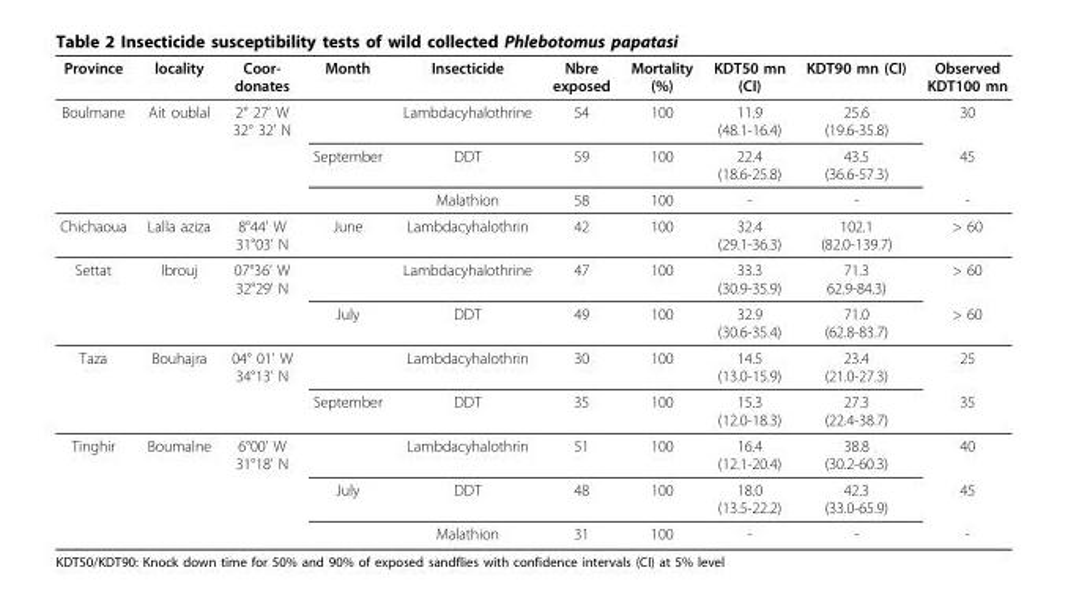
<table><thead><tr><td>Province</td><td>locality</td><td>Coor- donates</td><td>Month</td><td>Insecticide</td><td>Nbre exposed</td><td>Mortality (%)</td><td>KDT50 mn (CI)</td><td>KDT90 mn (CI)</td><td>Observed KDT100 mn</td></tr></thead><tbody><tr><td rowspan="3">Boulmane</td><td>Ait oublal</td><td>2° 27’ W 32° 32’ N</td><td></td><td>Lambdacyhalothrine</td><td>54</td><td>100</td><td>11.9 (48.1-16.4)</td><td>25.6 (19.6-35.8)</td><td>30</td></tr><tr><td></td><td></td><td>September</td><td>DDT</td><td>59</td><td>100</td><td>22.4 (18.6-25.8)</td><td>43.5 (36.6-57.3)</td><td>45</td></tr><tr><td></td><td></td><td></td><td>Malathion</td><td>58</td><td>100</td><td>-</td><td>-</td><td>-</td></tr><tr><td>Chichaoua</td><td>Lalla aziza</td><td>8°44’ W 31°03’ N</td><td>June</td><td>Lambdacyhalothrin</td><td>42</td><td>100</td><td>32.4 (29.1-36.3)</td><td>102.1 (82.0-139.7)</td><td>&gt; 60</td></tr><tr><td rowspan="2">Settat</td><td>lbrouj</td><td>07°36’ W 32°29’ N</td><td></td><td>Lambdacyhalothrine</td><td>47</td><td>100</td><td>33.3 (30.9-35.9)</td><td>71.3 62.9-84.3)</td><td>&gt; 60</td></tr><tr><td></td><td></td><td>July</td><td>DDT</td><td>49</td><td>100</td><td>32.9 (30.6-35.4)</td><td>71.0 (62.8-83.7)</td><td>&gt; 60</td></tr><tr><td rowspan="2">Taza</td><td>Bouhajra</td><td>04° 01’ W 34°13’ N</td><td></td><td>Lambdacyhalothrin</td><td>30</td><td>100</td><td>14.5 (13.0-15.9)</td><td>23.4 (21.0-27.3)</td><td>25</td></tr><tr><td></td><td></td><td>September</td><td>DDT</td><td>35</td><td>100</td><td>15.3 (12.0-18.3)</td><td>27.3 (22.4-38.7)</td><td>35</td></tr><tr><td rowspan="3">Tinghir</td><td>Boumalne</td><td>6°00’ W 31°18’ N</td><td></td><td>Lambdacyhalothrin</td><td>51</td><td>100</td><td>16.4 (12.1-20.4)</td><td>38.8 (30.2-60.3)</td><td>40</td></tr><tr><td></td><td></td><td>July</td><td>DDT</td><td>48</td><td>100</td><td>18.0 (13.5-22.2)</td><td>42.3 (33.0-65.9)</td><td>45</td></tr><tr><td></td><td></td><td></td><td>Malathion</td><td>31</td><td>100</td><td>-</td><td>-</td><td>-</td></tr></tbody></table>